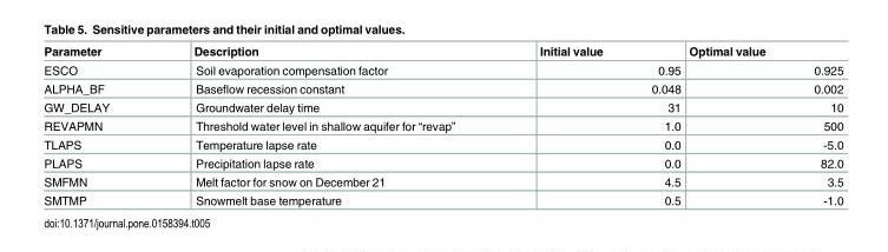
<table><thead><tr><td>Parameter</td><td>Description</td><td>Initial value</td><td>Optimal value</td></tr></thead><tbody><tr><td>ESCO</td><td>Soil evaporation compensation factor</td><td>0.95</td><td>0.925</td></tr><tr><td>ALPHA_BF</td><td>Baseflow recession constant</td><td>0.048</td><td>0.002</td></tr><tr><td>GW_DELAY</td><td>Groundwater delay time</td><td>31</td><td>10</td></tr><tr><td>REVAPMN</td><td>Threshold water level in shallow aquifer for “revap”</td><td>1.0</td><td>500</td></tr><tr><td>TLAPS</td><td>Temperature lapse rate</td><td>0.0</td><td>-5.0</td></tr><tr><td>PLAPS</td><td>Precipitation lapse rate</td><td>0.0</td><td>82.0</td></tr><tr><td>SMFMN</td><td>Melt factor for snow on December 21</td><td>4.5</td><td>3.5</td></tr><tr><td>SMTMP</td><td>Snowmelt base temperature</td><td>0.5</td><td>-1.0</td></tr></tbody></table>